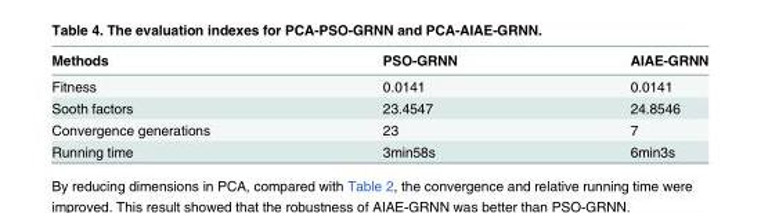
<table><thead><tr><td>Methods</td><td>PSO-GRNN</td><td>AIAE-GRNN</td></tr></thead><tbody><tr><td>Fitness</td><td>0.0141</td><td>0.0141</td></tr><tr><td>Sooth factors</td><td>23.4547</td><td>24.8546</td></tr><tr><td>Convergence generations</td><td>23</td><td>7</td></tr><tr><td>Running time</td><td>3min58s</td><td>6min3s</td></tr></tbody></table>